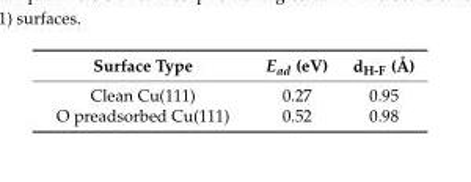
<table><thead><tr><td>Surface Type</td><td>E<sub>ad</sub> (eV)</td><td>d<sub>H-F</sub> (Å)</td></tr></thead><tbody><tr><td>Clean Cu(111)</td><td>0.27</td><td>0.95</td></tr><tr><td>O preadsorbed Cu(111)</td><td>0.52</td><td>0.98</td></tr></tbody></table>